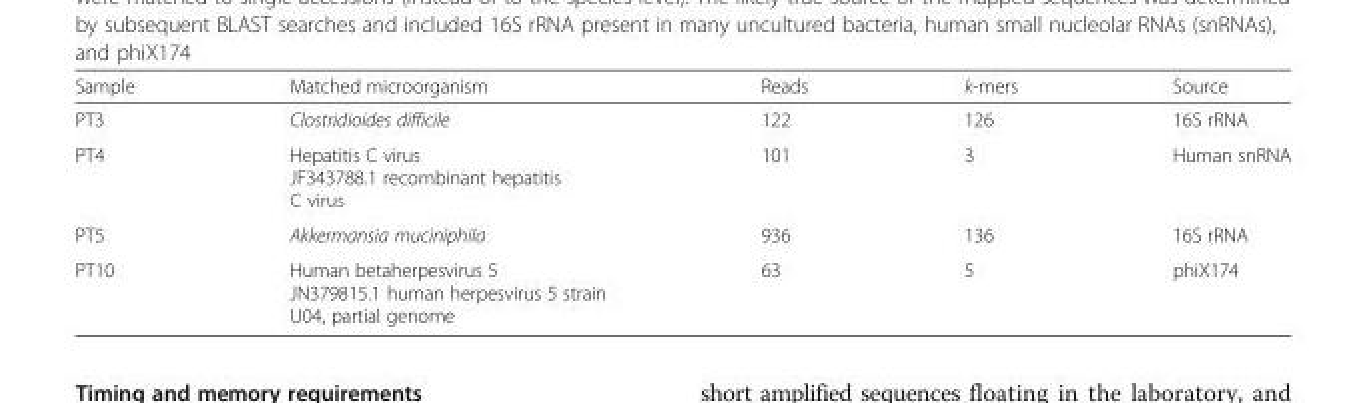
<table><thead><tr><td>Sample</td><td>Matched microorganism</td><td>Reads</td><td>k-mers</td><td>Source</td></tr></thead><tbody><tr><td>PT3</td><td>Clostridioides difficile</td><td>122</td><td>126</td><td>16S rRNA</td></tr><tr><td>PT4</td><td>Hepatitis C virus JF343788.1 recombinant hepatitis C virus</td><td>101</td><td>3</td><td>Human snRNA</td></tr><tr><td>PT5</td><td>Akkermansia muciniphila</td><td>936</td><td>136</td><td>16S rRNA</td></tr><tr><td>PT10</td><td>Human betaherpesvirus 5 JN379815.1 human herpesvirus 5 strain U04, partial genome</td><td>63</td><td>5</td><td>phiX174</td></tr></tbody></table>